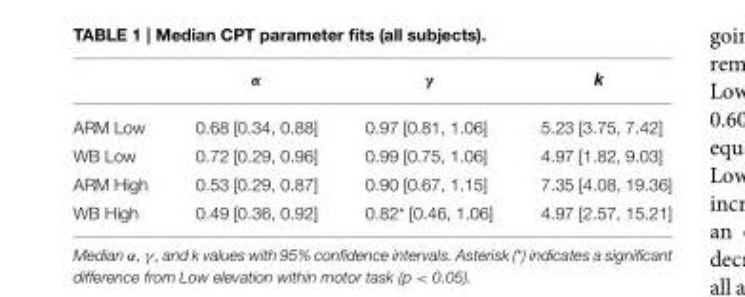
<table><thead><tr><td></td><td>α</td><td>γ</td><td>k</td></tr></thead><tbody><tr><td>ARM Low</td><td>0.68 [0.34, 0.88]</td><td>0.97 [0.81, 1.06]</td><td>5.23 [3.75, 7.42]</td></tr><tr><td>WB Low</td><td>0.72 [0.29, 0.96]</td><td>0.99 [0.75, 1.06]</td><td>4.97 [1.82, 9.03]</td></tr><tr><td>ARM High</td><td>0.53 [0.29, 0.87]</td><td>0.90 [0.67, 1.15]</td><td>7.35 [4.08, 19.36]</td></tr><tr><td>WB High</td><td>0.49 [0.36, 0.92]</td><td>0.82* [0.46, 1.06]</td><td>4.97 [2.57, 15.21]</td></tr></tbody></table>